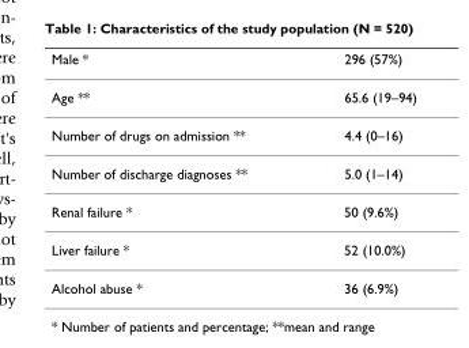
<table><thead><tr><td>Male *</td><td>296 (57%)</td></tr></thead><tbody><tr><td>Age **</td><td>65.6 (19–94)</td></tr><tr><td>Number of drugs on admission **</td><td>4.4 (0–16)</td></tr><tr><td>Number of discharge diagnoses **</td><td>5.0 (1–14)</td></tr><tr><td>Renal failure *</td><td>50 (9.6%)</td></tr><tr><td>Liver failure *</td><td>52 (10.0%)</td></tr><tr><td>Alcohol abuse *</td><td>36 (6.9%)</td></tr></tbody></table>